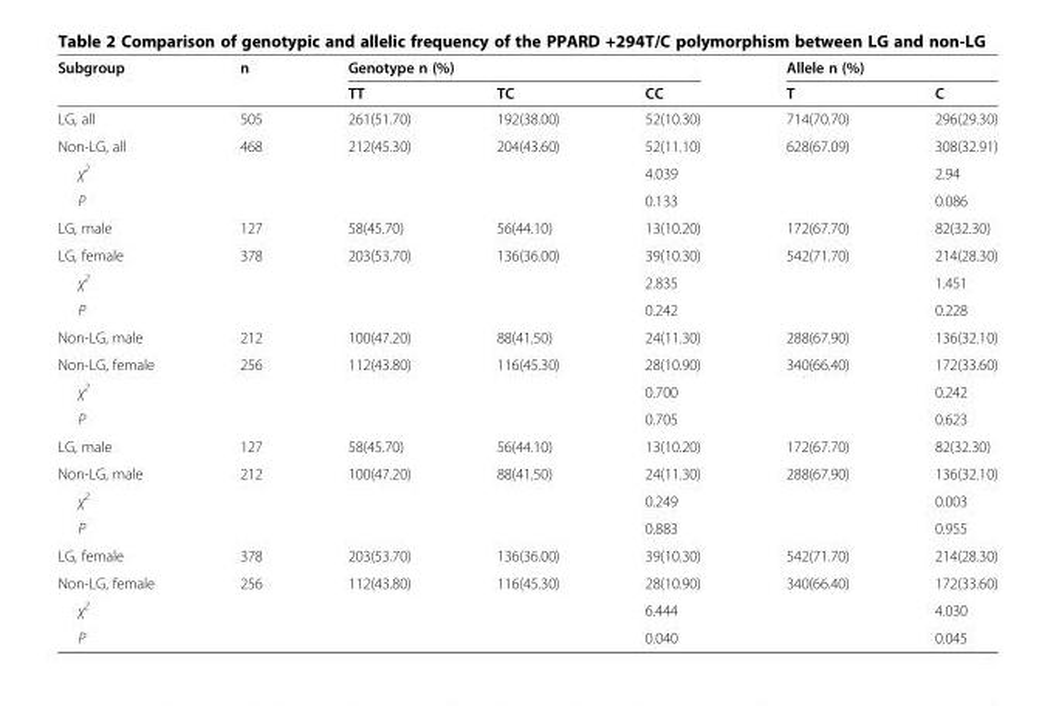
<table><thead><tr><td rowspan="2">Subgroup</td><td rowspan="2">n</td><td colspan="3">Genotype n (%)</td><td colspan="2">Allele n (%)</td></tr><tr><td>TT</td><td>TC</td><td>CC</td><td>T</td><td>C</td></tr></thead><tbody><tr><td>LG, all</td><td>505</td><td>261(51.70)</td><td>192(38.00)</td><td>52(10.30)</td><td>714(70.70)</td><td>296(29.30)</td></tr><tr><td>Non-LG, all</td><td>468</td><td>212(45.30)</td><td>204(43.60)</td><td>52(11.10)</td><td>628(67.09)</td><td>308(32.91)</td></tr><tr><td>χ<sup>2</sup></td><td></td><td></td><td></td><td>4.039</td><td></td><td>2.94</td></tr><tr><td>P</td><td></td><td></td><td></td><td>0.133</td><td></td><td>0.086</td></tr><tr><td>LG, male</td><td>127</td><td>58(45.70)</td><td>56(44.10)</td><td>13(10.20)</td><td>172(67.70)</td><td>82(32.30)</td></tr><tr><td>LG, female</td><td>378</td><td>203(53.70)</td><td>136(36.00)</td><td>39(10.30)</td><td>542(71.70)</td><td>214(28.30)</td></tr><tr><td>χ<sup>2</sup></td><td></td><td></td><td></td><td>2.835</td><td></td><td>1.451</td></tr><tr><td>P</td><td></td><td></td><td></td><td>0.242</td><td></td><td>0.228</td></tr><tr><td>Non-LG, male</td><td>212</td><td>100(47.20)</td><td>88(41.50)</td><td>24(11.30)</td><td>288(67.90)</td><td>136(32.10)</td></tr><tr><td>Non-LG, female</td><td>256</td><td>112(43.80)</td><td>116(45.30)</td><td>28(10.90)</td><td>340(66.40)</td><td>172(33.60)</td></tr><tr><td>χ<sup>2</sup></td><td></td><td></td><td></td><td>0.700</td><td></td><td>0.242</td></tr><tr><td>P</td><td></td><td></td><td></td><td>0.705</td><td></td><td>0.623</td></tr><tr><td>LG, male</td><td>127</td><td>58(45.70)</td><td>56(44.10)</td><td>13(10.20)</td><td>172(67.70)</td><td>82(32.30)</td></tr><tr><td>Non-LG, male</td><td>212</td><td>100(47.20)</td><td>88(41.50)</td><td>24(11.30)</td><td>288(67.90)</td><td>136(32.10)</td></tr><tr><td>χ<sup>2</sup></td><td></td><td></td><td></td><td>0.249</td><td></td><td>0.003</td></tr><tr><td>P</td><td></td><td></td><td></td><td>0.883</td><td></td><td>0.955</td></tr><tr><td>LG, female</td><td>378</td><td>203(53.70)</td><td>136(36.00)</td><td>39(10.30)</td><td>542(71.70)</td><td>214(28.30)</td></tr><tr><td>Non-LG, female</td><td>256</td><td>112(43.80)</td><td>116(45.30)</td><td>28(10.90)</td><td>340(66.40)</td><td>172(33.60)</td></tr><tr><td>χ<sup>2</sup></td><td></td><td></td><td></td><td>6.444</td><td></td><td>4.030</td></tr><tr><td>P</td><td></td><td></td><td></td><td>0.040</td><td></td><td>0.045</td></tr></tbody></table>